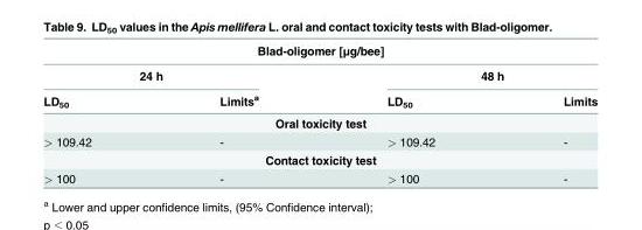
<table><thead><tr><td colspan="4">Blad-oligomer [μg/bee]</td></tr><tr><td colspan="2">24 h</td><td colspan="2">48 h</td></tr><tr><td>LD<sub>50</sub></td><td>Limits<sup>a</sup></td><td>LD<sub>50</sub></td><td>Limits</td></tr></thead><tbody><tr><td colspan="4">Oral toxicity test</td></tr><tr><td>&gt; 109.42</td><td>-</td><td>&gt; 109.42</td><td>-</td></tr><tr><td colspan="4">Contact toxicity test</td></tr><tr><td>&gt; 100</td><td>-</td><td>&gt; 100</td><td>-</td></tr></tbody></table>